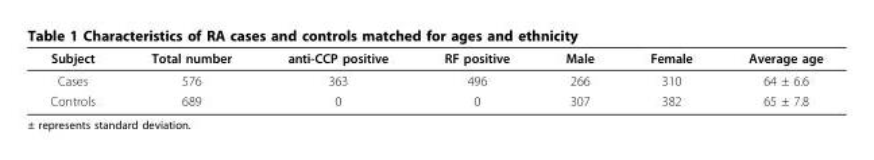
<table><thead><tr><td>Subject</td><td>Total number</td><td>anti-CCP positive</td><td>RF positive</td><td>Male</td><td>Female</td><td>Average age</td></tr></thead><tbody><tr><td>Cases</td><td>576</td><td>363</td><td>496</td><td>266</td><td>310</td><td>64 ± 6.6</td></tr><tr><td>Controls</td><td>689</td><td>0</td><td>0</td><td>307</td><td>382</td><td>65 ± 7.8</td></tr></tbody></table>